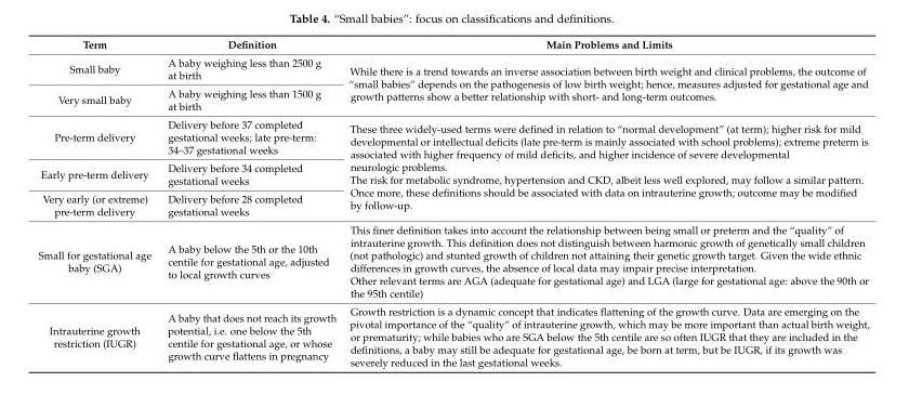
<table><thead><tr><td>Term</td><td>Definition</td><td>Main Problems and Limits</td></tr></thead><tbody><tr><td>Small baby</td><td>A baby weighing less than 2500 g at birth</td><td rowspan="2">While there is a trend towards an inverse association between birth weight and clinical problems, the outcome of “small babies” depends on the pathogenesis of low birth weight; hence, measures adjusted for gestational age and growth patterns show a better relationship with short- and long-term outcomes.</td></tr><tr><td>Very small baby</td><td>A baby weighing less than 1500 g at birth</td></tr><tr><td>Pre-term delivery</td><td>Delivery before 37 completed gestational weeks; late pre-term: 34–37 gestational weeks</td><td rowspan="3">These three widely-used terms were defined in relation to “normal development” (at term); higher risk for mild developmental or intellectual deficits (late pre-term is mainly associated with school problems); extreme preterm is associated with higher frequency of mild deficits, and higher incidence of severe developmental neurologic problems. The risk for metabolic syndrome, hypertension and CKD, albeit less well explored, may follow a similar pattern. Once more, these definitions should be associated with data on intrauterine growth; outcome may be modified by follow-up.</td></tr><tr><td>Early pre-term delivery</td><td>Delivery before 34 completed gestational weeks</td></tr><tr><td>Very early (or extreme) pre-term delivery</td><td>Delivery before 28 completed gestational weeks</td></tr><tr><td>Small for gestational age baby (SGA)</td><td>A baby below the 5th or the 10th centile for gestational age, adjusted to local growth curves</td><td>This finer definition takes into account the relationship between being small or preterm and the “quality” of intrauterine growth. This definition does not distinguish between harmonic growth of genetically small children (not pathologic) and stunted growth of children not attaining their genetic growth target. Given the wide ethnic differences in growth curves, the absence of local data may impair precise interpretation. Other relevant terms are AGA (adequate for gestational age) and LGA (large for gestational age: above the 90th or the 95th centile)</td></tr><tr><td>Intrauterine growth restriction (IUGR)</td><td>A baby that does not reach its growth potential, i.e. one below the 5th centile for gestational age, or whose growth curve flattens in pregnancy</td><td>Growth restriction is a dynamic concept that indicates flattening of the growth curve. Data are emerging on the pivotal importance of the “quality” of intrauterine growth, which may be more important than actual birth weight, or prematurity; while babies who are SGA below the 5th centile are so often IUGR that they are included in the definitions, a baby may still be adequate for gestational age, be born at term, but be IUGR, if its growth was severely reduced in the last gestational weeks.</td></tr></tbody></table>